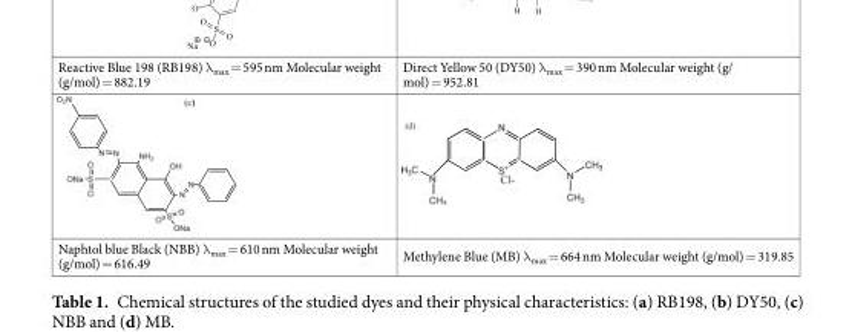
<table><tbody><tr><td>Reactive Blue 198 (RB198) λ<sub>max</sub> = 595 nm Molecular weight (g/mol) = 882.19</td><td>Direct Yellow 50 (DY50) λ<sub>max</sub> = 390 nm Molecular weight (g/ mol) = 952.81</td></tr><tr><td>Naphtol blue Black (NBB) λ<sub>max</sub> = 610 nm Molecular weight (g/mol) = 616.49</td><td>Methylene Blue (MB) λ<sub>max</sub> = 664 nm Molecular weight (g/mol) = 319.85</td></tr></tbody></table>